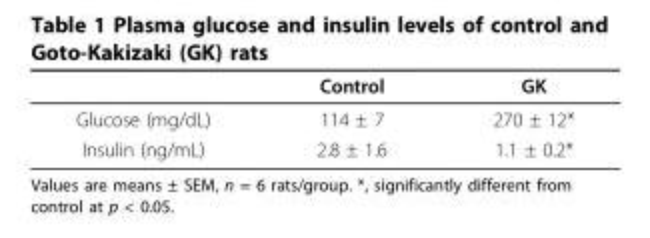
<table><thead><tr><td></td><td>Control</td><td>GK</td></tr></thead><tbody><tr><td>Glucose (mg/dL)</td><td>114 ± 7</td><td>270 ± 12*</td></tr><tr><td>Insulin (ng/mL)</td><td>2.8 ± 1.6</td><td>1.1 ± 0.2*</td></tr></tbody></table>